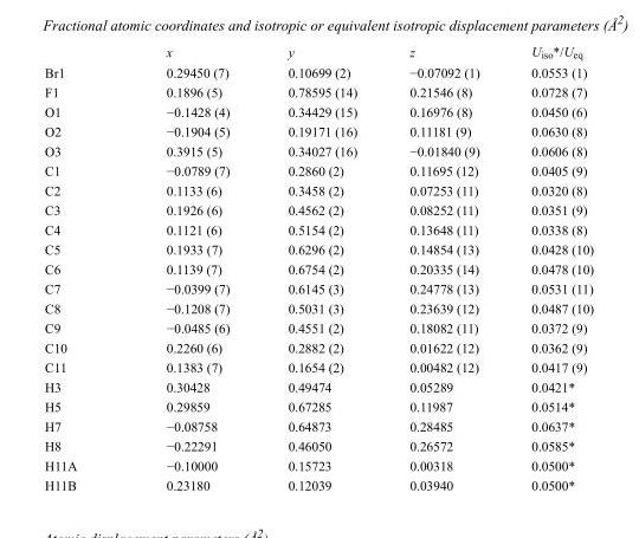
<table><thead><tr><td></td><td>x</td><td>y</td><td>z</td><td>U<sub>iso</sub>*/U<sub>eq</sub></td></tr></thead><tbody><tr><td>Br1</td><td>0.29450 (7)</td><td>0.10699 (2)</td><td>−0.07092 (1)</td><td>0.0553 (1)</td></tr><tr><td>F1</td><td>0.1896 (5)</td><td>0.78595 (14)</td><td>0.21546 (8)</td><td>0.0728 (7)</td></tr><tr><td>O1</td><td>−0.1428 (4)</td><td>0.34429 (15)</td><td>0.16976 (8)</td><td>0.0450 (6)</td></tr><tr><td>O2</td><td>−0.1904 (5)</td><td>0.19171 (16)</td><td>0.11181 (9)</td><td>0.0630 (8)</td></tr><tr><td>O3</td><td>0.3915 (5)</td><td>0.34027 (16)</td><td>−0.01840 (9)</td><td>0.0606 (8)</td></tr><tr><td>C1</td><td>−0.0789 (7)</td><td>0.2860 (2)</td><td>0.11695 (12)</td><td>0.0405 (9)</td></tr><tr><td>C2</td><td>0.1133 (6)</td><td>0.3458 (2)</td><td>0.07253 (11)</td><td>0.0320 (8)</td></tr><tr><td>C3</td><td>0.1926 (6)</td><td>0.4562 (2)</td><td>0.08252 (11)</td><td>0.0351 (9)</td></tr><tr><td>C4</td><td>0.1121 (6)</td><td>0.5154 (2)</td><td>0.13648 (11)</td><td>0.0338 (8)</td></tr><tr><td>C5</td><td>0.1933 (7)</td><td>0.6296 (2)</td><td>0.14854 (13)</td><td>0.0428 (10)</td></tr><tr><td>C6</td><td>0.1139 (7)</td><td>0.6754 (2)</td><td>0.20335 (14)</td><td>0.0478 (10)</td></tr><tr><td>C7</td><td>−0.0399 (7)</td><td>0.6145 (3)</td><td>0.24778 (13)</td><td>0.0531 (11)</td></tr><tr><td>C8</td><td>−0.1208 (7)</td><td>0.5031 (3)</td><td>0.23639 (12)</td><td>0.0487 (10)</td></tr><tr><td>C9</td><td>−0.0485 (6)</td><td>0.4551 (2)</td><td>0.18082 (11)</td><td>0.0372 (9)</td></tr><tr><td>C10</td><td>0.2260 (6)</td><td>0.2882 (2)</td><td>0.01622 (12)</td><td>0.0362 (9)</td></tr><tr><td>C11</td><td>0.1383 (7)</td><td>0.1654 (2)</td><td>0.00482 (12)</td><td>0.0417 (9)</td></tr><tr><td>H3</td><td>0.30428</td><td>0.49474</td><td>0.05289</td><td>0.0421*</td></tr><tr><td>H5</td><td>0.29859</td><td>0.67285</td><td>0.11987</td><td>0.0514*</td></tr><tr><td>H7</td><td>−0.08758</td><td>0.64873</td><td>0.28485</td><td>0.0637*</td></tr><tr><td>H8</td><td>−0.22291</td><td>0.46050</td><td>0.26572</td><td>0.0585*</td></tr><tr><td>H11A</td><td>−0.10000</td><td>0.15723</td><td>0.00318</td><td>0.0500*</td></tr><tr><td>H11B</td><td>0.23180</td><td>0.12039</td><td>0.03940</td><td>0.0500*</td></tr></tbody></table>